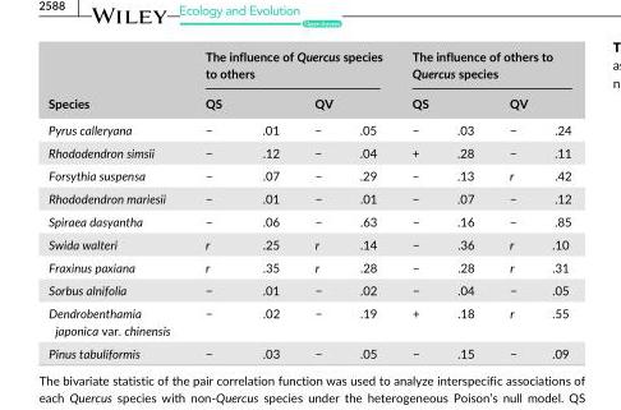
<table><thead><tr><td rowspan="3">Species Pyrus calleryana</td><td colspan="4">The influence of Quercus species to others</td><td colspan="4">The influence of others to Quercus species</td></tr><tr><td colspan="2">QS</td><td colspan="2">QV</td><td colspan="2">QS</td><td colspan="2">QV</td></tr><tr><td>−</td><td>.01</td><td>−</td><td>.05</td><td>−</td><td>.03</td><td>−</td><td>.24</td></tr></thead><tbody><tr><td>Rhododendron simsii</td><td>−</td><td>.12</td><td>−</td><td>.04</td><td>+</td><td>.28</td><td>−</td><td>.11</td></tr><tr><td>Forsythia suspensa</td><td>−</td><td>.07</td><td>−</td><td>.29</td><td>−</td><td>.13</td><td>r</td><td>.42</td></tr><tr><td>Rhododendron mariesii</td><td>−</td><td>.01</td><td>−</td><td>.01</td><td>−</td><td>.07</td><td>−</td><td>.12</td></tr><tr><td>Spiraea dasyantha</td><td>−</td><td>.06</td><td>−</td><td>.63</td><td>−</td><td>.16</td><td>−</td><td>.85</td></tr><tr><td>Swida walteri</td><td>r</td><td>.25</td><td>r</td><td>.14</td><td>−</td><td>.36</td><td>r</td><td>.10</td></tr><tr><td>Fraxinus paxiana</td><td>r</td><td>.35</td><td>r</td><td>.28</td><td>−</td><td>.28</td><td>r</td><td>.31</td></tr><tr><td>Sorbus alnifolia</td><td>−</td><td>.01</td><td>−</td><td>.02</td><td>−</td><td>.04</td><td>−</td><td>.05</td></tr><tr><td>Dendrobenthamia japonica var. chinensis</td><td>−</td><td>.02</td><td>−</td><td>.19</td><td>+</td><td>.18</td><td>r</td><td>.55</td></tr><tr><td>Pinus tabuliformis</td><td>−</td><td>.03</td><td>−</td><td>.05</td><td>−</td><td>.15</td><td>−</td><td>.09</td></tr></tbody></table>